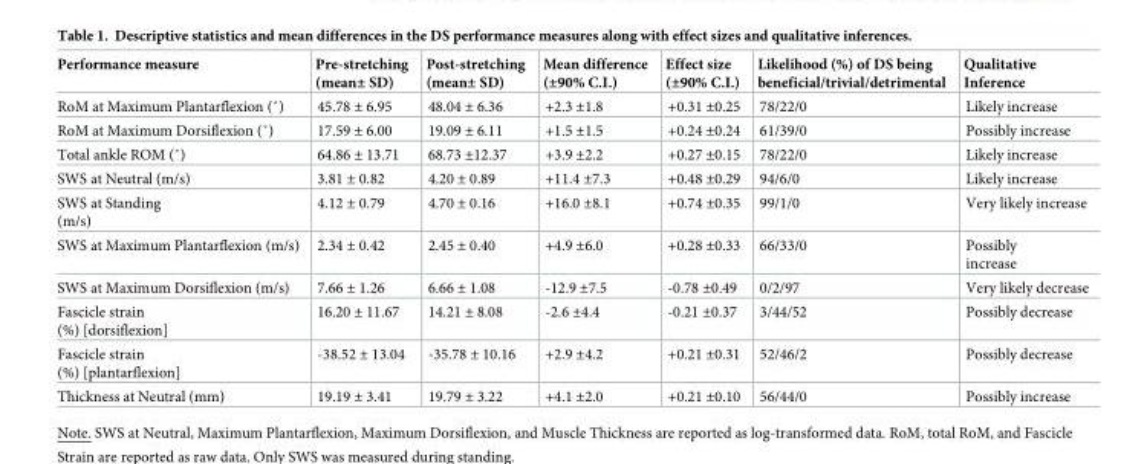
<table><thead><tr><td>Performance measure</td><td>Pre-stretching (mean± SD)</td><td>Post-stretching (mean± SD)</td><td>Mean difference (±90% C.I.)</td><td>Effect size (±90% C.I.)</td><td>Likelihood (%) of DS being beneficial/trivial/detrimental</td><td>Qualitative Inference</td></tr></thead><tbody><tr><td>RoM at Maximum Plantarflexion (˚)</td><td>45.78 ± 6.95</td><td>48.04 ± 6.36</td><td>+2.3 ±1.8</td><td>+0.31 ±0.25</td><td>78/22/0</td><td>Likely increase</td></tr><tr><td>RoM at Maximum Dorsiflexion (˚)</td><td>17.59 ± 6.00</td><td>19.09 ± 6.11</td><td>+1.5 ±1.5</td><td>+0.24 ±0.24</td><td>61/39/0</td><td>Possibly increase</td></tr><tr><td>Total ankle ROM (˚)</td><td>64.86 ± 13.71</td><td>68.73 ±12.37</td><td>+3.9 ±2.2</td><td>+0.27 ±0.15</td><td>78/22/0</td><td>Likely increase</td></tr><tr><td>SWS at Neutral (m/s)</td><td>3.81 ± 0.82</td><td>4.20 ± 0.89</td><td>+11.4 ±7.3</td><td>+0.48 ±0.29</td><td>94/6/0</td><td>Likely increase</td></tr><tr><td>SWS at Standing (m/s)</td><td>4.12 ± 0.79</td><td>4.70 ± 0.16</td><td>+16.0 ±8.1</td><td>+0.74 ±0.35</td><td>99/1/0</td><td>Very likely increase</td></tr><tr><td>SWS at Maximum Plantarflexion (m/s)</td><td>2.34 ± 0.42</td><td>2.45 ± 0.40</td><td>+4.9 ±6.0</td><td>+0.28 ±0.33</td><td>66/33/0</td><td>Possibly increase</td></tr><tr><td>SWS at Maximum Dorsiflexion (m/s)</td><td>7.66 ± 1.26</td><td>6.66 ± 1.08</td><td>-12.9 ±7.5</td><td>-0.78 ±0.49</td><td>0/2/97</td><td>Very likely decrease</td></tr><tr><td>Fascicle strain (%) [dorsiflexion]</td><td>16.20 ± 11.67</td><td>14.21 ± 8.08</td><td>-2.6 ±4.4</td><td>-0.21 ±0.37</td><td>3/44/52</td><td>Possibly decrease</td></tr><tr><td>Fascicle strain (%) [plantarflexion]</td><td>-38.52 ± 13.04</td><td>-35.78 ± 10.16</td><td>+2.9 ±4.2</td><td>+0.21 ±0.31</td><td>52/46/2</td><td>Possibly decrease</td></tr><tr><td>Thickness at Neutral (mm)</td><td>19.19 ± 3.41</td><td>19.79 ± 3.22</td><td>+4.1 ±2.0</td><td>+0.21 ±0.10</td><td>56/44/0</td><td>Possibly increase</td></tr></tbody></table>